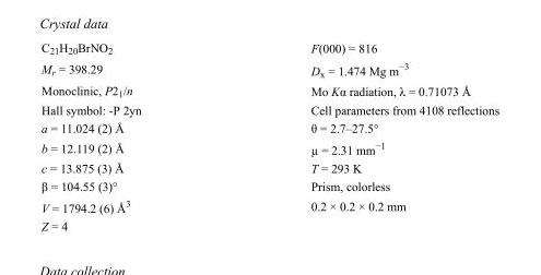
<table><tbody><tr><td>C<sub>21</sub>H<sub>20</sub>BrNO<sub>2</sub></td><td>F(000) = 816</td></tr><tr><td>M<sub>r</sub> = 398.29</td><td>D<sub>x</sub> = 1.474 Mg m<sup>−3</sup></td></tr><tr><td>Monoclinic, P2<sub>1</sub>/n</td><td>Mo Kα radiation, λ = 0.71073 Å</td></tr><tr><td>Hall symbol: -P 2yn</td><td>Cell parameters from 4108 reflections</td></tr><tr><td>a = 11.024 (2) Å</td><td>θ = 2.7–27.5°</td></tr><tr><td>b = 12.119 (2) Å</td><td>µ = 2.31 mm<sup>−1</sup></td></tr><tr><td>c = 13.875 (3) Å</td><td>T = 293 K</td></tr><tr><td>β = 104.55 (3)°</td><td>Prism, colorless</td></tr><tr><td>V = 1794.2 (6) Å<sup>3</sup></td><td>0.2 × 0.2 × 0.2 mm</td></tr><tr><td>Z = 4</td><td></td></tr></tbody></table>